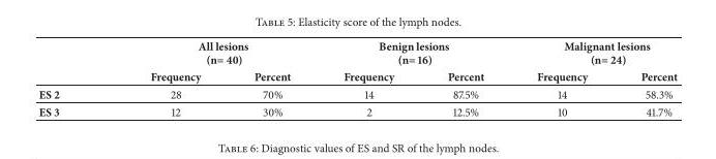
<table><thead><tr><td rowspan="2"></td><td colspan="2">All lesions (n= 40)</td><td colspan="2">Benign lesions (n= 16)</td><td colspan="2">Malignant lesions (n= 24)</td></tr><tr><td>Frequency</td><td>Percent</td><td>Frequency</td><td>Percent</td><td>Frequency</td><td>Percent</td></tr></thead><tbody><tr><td>ES 2</td><td>28</td><td>70%</td><td>14</td><td>87.5%</td><td>14</td><td>58.3%</td></tr><tr><td>ES 3</td><td>12</td><td>30%</td><td>2</td><td>12.5%</td><td>10</td><td>41.7%</td></tr></tbody></table>